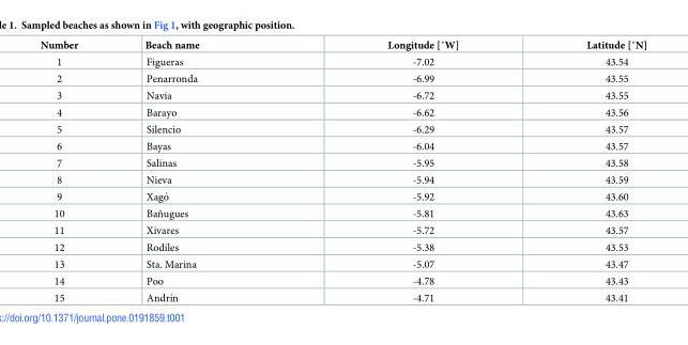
<table><thead><tr><td>Number</td><td>Beach name</td><td>Longitude [˚W]</td><td>Latitude [˚N]</td></tr></thead><tbody><tr><td>1</td><td>Figueras</td><td>-7.02</td><td>43.54</td></tr><tr><td>2</td><td>Penarronda</td><td>-6.99</td><td>43.55</td></tr><tr><td>3</td><td>Navia</td><td>-6.72</td><td>43.55</td></tr><tr><td>4</td><td>Barayo</td><td>-6.62</td><td>43.56</td></tr><tr><td>5</td><td>Silencio</td><td>-6.29</td><td>43.57</td></tr><tr><td>6</td><td>Bayas</td><td>-6.04</td><td>43.57</td></tr><tr><td>7</td><td>Salinas</td><td>-5.95</td><td>43.58</td></tr><tr><td>8</td><td>Nieva</td><td>-5.94</td><td>43.59</td></tr><tr><td>9</td><td>Xago´</td><td>-5.92</td><td>43.60</td></tr><tr><td>10</td><td>Bañugues</td><td>-5.81</td><td>43.63</td></tr><tr><td>11</td><td>Xivares</td><td>-5.72</td><td>43.57</td></tr><tr><td>12</td><td>Rodiles</td><td>-5.38</td><td>43.53</td></tr><tr><td>13</td><td>Sta. Marina</td><td>-5.07</td><td>43.47</td></tr><tr><td>14</td><td>Poo</td><td>-4.78</td><td>43.43</td></tr><tr><td>15</td><td>Andrı´n</td><td>-4.71</td><td>43.41</td></tr></tbody></table>